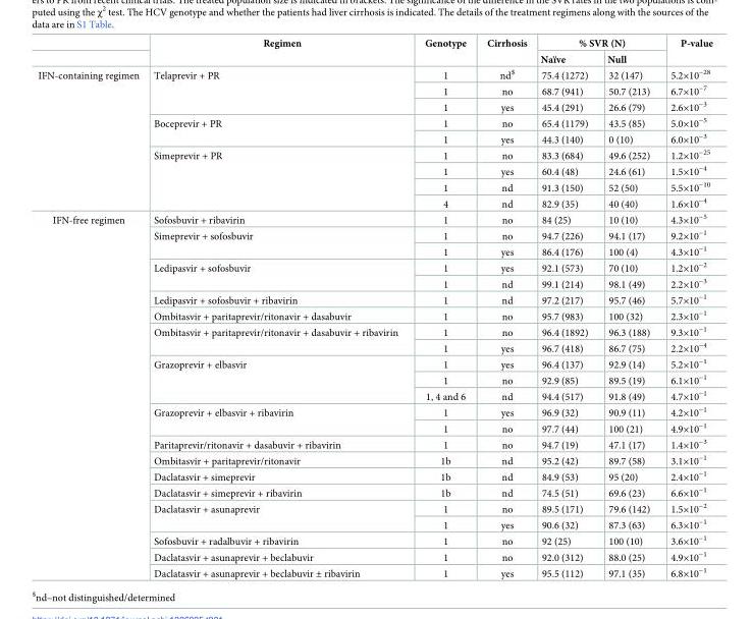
<table><thead><tr><td rowspan="2"></td><td rowspan="2">Regimen</td><td rowspan="2">Genotype</td><td rowspan="2">Cirrhosis</td><td colspan="2">% SVR (N)</td><td rowspan="2">P-value</td></tr><tr><td>Naïve</td><td>Null</td></tr></thead><tbody><tr><td rowspan="9">IFN-containing regimen</td><td rowspan="3">Telaprevir + PR</td><td>1</td><td>nd<sup>$</sup></td><td>75.4 (1272)</td><td>32 (147)</td><td>5.2×10<sup>−28</sup></td></tr><tr><td>1</td><td>no</td><td>68.7 (941)</td><td>50.7 (213)</td><td>6.7×10<sup>−7</sup></td></tr><tr><td>1</td><td>yes</td><td>45.4 (291)</td><td>26.6 (79)</td><td>2.6×10<sup>−3</sup></td></tr><tr><td rowspan="2">Boceprevir + PR</td><td>1</td><td>no</td><td>65.4 (1179)</td><td>43.5 (85)</td><td>5.0×10<sup>−5</sup></td></tr><tr><td>1</td><td>yes</td><td>44.3 (140)</td><td>0 (10)</td><td>6.0×10<sup>−3</sup></td></tr><tr><td rowspan="4">Simeprevir + PR</td><td>1</td><td>no</td><td>83.3 (684)</td><td>49.6 (252)</td><td>1.2×10<sup>−25</sup></td></tr><tr><td>1</td><td>yes</td><td>60.4 (48)</td><td>24.6 (61)</td><td>1.5×10<sup>−4</sup></td></tr><tr><td>1</td><td>nd</td><td>91.3 (150)</td><td>52 (50)</td><td>5.5×10<sup>−10</sup></td></tr><tr><td>4</td><td>nd</td><td>82.9 (35)</td><td>40 (40)</td><td>1.6×10<sup>−4</sup></td></tr><tr><td rowspan="23">IFN-free regimen</td><td>Sofosbuvir + ribavirin</td><td>1</td><td>no</td><td>84 (25)</td><td>10 (10)</td><td>4.3×10<sup>−5</sup></td></tr><tr><td rowspan="2">Simeprevir + sofosbuvir</td><td>1</td><td>no</td><td>94.7 (226)</td><td>94.1 (17)</td><td>9.2×10<sup>−1</sup></td></tr><tr><td>1</td><td>yes</td><td>86.4 (176)</td><td>100 (4)</td><td>4.3×10<sup>−1</sup></td></tr><tr><td rowspan="2">Ledipasvir + sofosbuvir</td><td>1</td><td>yes</td><td>92.1 (573)</td><td>70 (10)</td><td>1.2×10<sup>−2</sup></td></tr><tr><td>1</td><td>nd</td><td>99.1 (214)</td><td>98.1 (49)</td><td>2.2×10<sup>−3</sup></td></tr><tr><td>Ledipasvir + sofosbuvir + ribavirin</td><td>1</td><td>nd</td><td>97.2 (217)</td><td>95.7 (46)</td><td>5.7×10<sup>−1</sup></td></tr><tr><td>Ombitasvir + paritaprevir/ritonavir + dasabuvir</td><td>1</td><td>no</td><td>95.7 (983)</td><td>100 (32)</td><td>2.3×10<sup>−1</sup></td></tr><tr><td rowspan="2">Ombitasvir + paritaprevir/ritonavir + dasabuvir + ribavirin</td><td>1</td><td>no</td><td>96.4 (1892)</td><td>96.3 (188)</td><td>9.3×10<sup>−1</sup></td></tr><tr><td>1</td><td>yes</td><td>96.7 (418)</td><td>86.7 (75)</td><td>2.2×10<sup>−4</sup></td></tr><tr><td rowspan="3">Grazoprevir + elbasvir</td><td>1</td><td>yes</td><td>96.4 (137)</td><td>92.9 (14)</td><td>5.2×10<sup>−1</sup></td></tr><tr><td>1</td><td>no</td><td>92.9 (85)</td><td>89.5 (19)</td><td>6.1×10<sup>−1</sup></td></tr><tr><td>1, 4 and 6</td><td>nd</td><td>94.4 (517)</td><td>91.8 (49)</td><td>4.7×10<sup>−1</sup></td></tr><tr><td rowspan="2">Grazoprevir + elbasvir + ribavirin</td><td>1</td><td>yes</td><td>96.9 (32)</td><td>90.9 (11)</td><td>4.2×10<sup>−1</sup></td></tr><tr><td>1</td><td>no</td><td>97.7 (44)</td><td>100 (21)</td><td>4.9×10<sup>−1</sup></td></tr><tr><td>Paritaprevir/ritonavir + dasabuvir + ribavirin</td><td>1</td><td>no</td><td>94.7 (19)</td><td>47.1 (17)</td><td>1.4×10<sup>−3</sup></td></tr><tr><td>Ombitasvir + paritaprevir/ritonavir</td><td>1b</td><td>nd</td><td>95.2 (42)</td><td>89.7 (58)</td><td>3.1×10<sup>−1</sup></td></tr><tr><td>Daclatasvir + simeprevir</td><td>1b</td><td>nd</td><td>84.9 (53)</td><td>95 (20)</td><td>2.4×10<sup>−1</sup></td></tr><tr><td>Daclatasvir + simeprevir + ribavirin</td><td>1b</td><td>nd</td><td>74.5 (51)</td><td>69.6 (23)</td><td>6.6×10<sup>−1</sup></td></tr><tr><td rowspan="2">Daclatasvir + asunaprevir</td><td>1</td><td>no</td><td>89.5 (171)</td><td>79.6 (142)</td><td>1.5×10<sup>−2</sup></td></tr><tr><td>1</td><td>yes</td><td>90.6 (32)</td><td>87.3 (63)</td><td>6.3×10<sup>−1</sup></td></tr><tr><td>Sofosbuvir + radalbuvir + ribavirin</td><td>1</td><td>no</td><td>92 (25)</td><td>100 (10)</td><td>3.6×10<sup>−1</sup></td></tr><tr><td>Daclatasvir + asunaprevir + beclabuvir</td><td>1</td><td>no</td><td>92.0 (312)</td><td>88.0 (25)</td><td>4.9×10<sup>−1</sup></td></tr><tr><td>Daclatasvir + asunaprevir + beclabuvir ± ribavirin</td><td>1</td><td>yes</td><td>95.5 (112)</td><td>97.1 (35)</td><td>6.8×10<sup>−1</sup></td></tr></tbody></table>